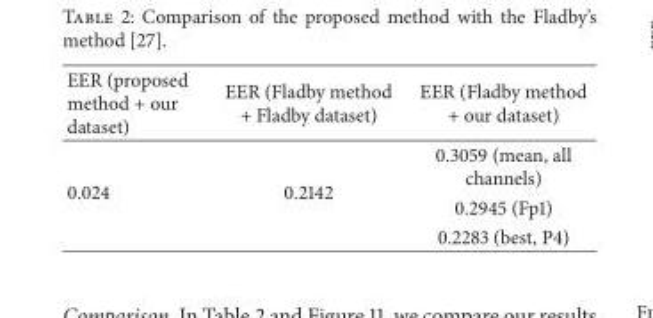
<table><thead><tr><td>EER (proposed method + our dataset)</td><td>EER (Fladby method + Fladby dataset)</td><td>EER (Fladby method + our dataset)</td></tr></thead><tbody><tr><td rowspan="3">0.024</td><td rowspan="3">0.2142</td><td>0.3059 (mean, all channels)</td></tr><tr><td>0.2945 (Fp1)</td></tr><tr><td>0.2283 (best, P4)</td></tr></tbody></table>